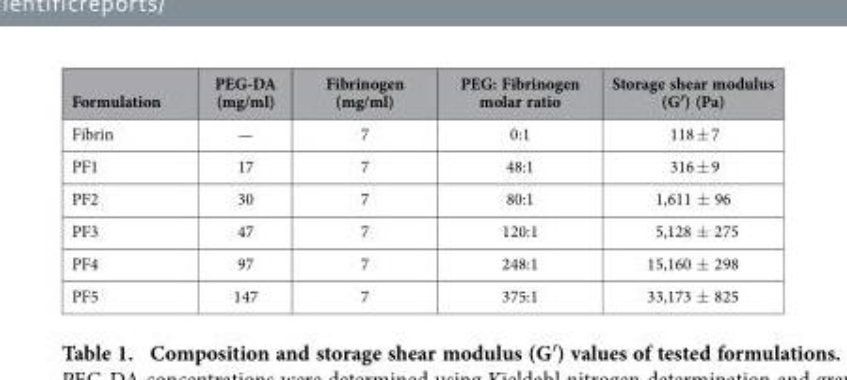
<table><thead><tr><td>Formulation</td><td>PEG-DA (mg/ml)</td><td>Fibrinogen (mg/ml)</td><td>PEG: Fibrinogen molar ratio</td><td>Storage shear modulus (G′) (Pa)</td></tr></thead><tbody><tr><td>Fibrin</td><td>—</td><td>7</td><td>0:1</td><td>118 ± 7</td></tr><tr><td>PF1</td><td>17</td><td>7</td><td>48:1</td><td>316 ± 9</td></tr><tr><td>PF2</td><td>30</td><td>7</td><td>80:1</td><td>1,611 ± 96</td></tr><tr><td>PF3</td><td>47</td><td>7</td><td>120:1</td><td>5,128 ± 275</td></tr><tr><td>PF4</td><td>97</td><td>7</td><td>248:1</td><td>15,160 ± 298</td></tr><tr><td>PF5</td><td>147</td><td>7</td><td>375:1</td><td>33,173 ± 825</td></tr></tbody></table>